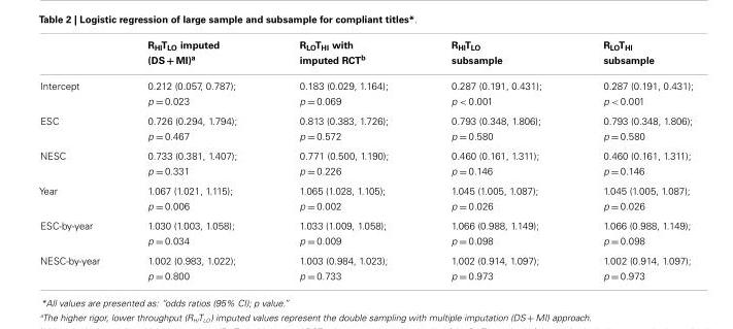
<table><thead><tr><td></td><td>R<sub>HI</sub>T<sub>LO</sub> imputed (DS + MI)<sup>a</sup></td><td>R<sub>LO</sub>T<sub>HI</sub> with imputed RCT<sup>b</sup></td><td>R<sub>HI</sub>T<sub>LO</sub> subsample</td><td>R<sub>LO</sub>T<sub>HI</sub> subsample</td></tr></thead><tbody><tr><td>Intercept</td><td>0.212 (0.057, 0.787); p = 0.023</td><td>0.183 (0.029, 1.164); p = 0.069</td><td>0.287 (0.191, 0.431); p &lt; 0.001</td><td>0.287 (0.191, 0.431); p &lt; 0.001</td></tr><tr><td>ESC</td><td>0.726 (0.294, 1.794); p = 0.467</td><td>0.813 (0.383, 1.726); p = 0.572</td><td>0.793 (0.348, 1.806); p = 0.580</td><td>0.793 (0.348, 1.806); p = 0.580</td></tr><tr><td>NESC</td><td>0.733 (0.381, 1.407); p = 0.331</td><td>0.771 (0.500, 1.190); p = 0.226</td><td>0.460 (0.161, 1.311); p = 0.146</td><td>0.460 (0.161, 1.311); p = 0.146</td></tr><tr><td>Year</td><td>1.067 (1.021, 1.115); p = 0.006</td><td>1.065 (1.028, 1.105); p = 0.002</td><td>1.045 (1.005, 1.087); p = 0.026</td><td>1.045 (1.005, 1.087); p = 0.026</td></tr><tr><td>ESC-by-year</td><td>1.030 (1.003, 1.058); p = 0.034</td><td>1.033 (1.009, 1.058); p = 0.009</td><td>1.066 (0.988, 1.149); p = 0.098</td><td>1.066 (0.988, 1.149); p = 0.098</td></tr><tr><td>NESC-by-year</td><td>1.002 (0.983, 1.022); p = 0.800</td><td>1.003 (0.984, 1.023); p = 0.733</td><td>1.002 (0.914, 1.097); p = 0.973</td><td>1.002 (0.914, 1.097); p = 0.973</td></tr></tbody></table>